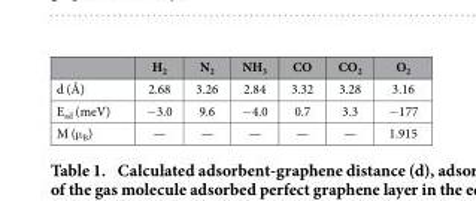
<table><thead><tr><td></td><td>H<sub>2</sub></td><td>N<sub>2</sub></td><td>NH<sub>3</sub></td><td>CO</td><td>CO<sub>2</sub></td><td>O<sub>2</sub></td></tr></thead><tbody><tr><td>d (Å)</td><td>2.68</td><td>3.26</td><td>2.84</td><td>3.32</td><td>3.28</td><td>3.16</td></tr><tr><td>E<sub>ad</sub> (meV)</td><td>− 3.0</td><td>9.6</td><td>− 4.0</td><td>0.7</td><td>3.3</td><td>− 177</td></tr><tr><td>M (μ <sub>B</sub>)</td><td>—</td><td>—</td><td>—</td><td>—</td><td>—</td><td>1.915</td></tr></tbody></table>